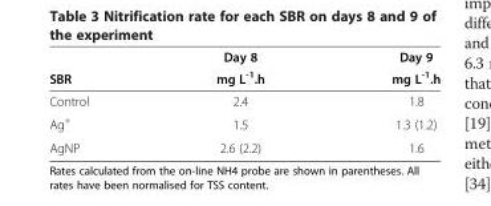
<table><thead><tr><td rowspan="2">SBR</td><td rowspan="2">Day 8 mg L<sup>-1</sup>.h</td><td rowspan="2">Day 9 mg L<sup>-1</sup>.h</td></tr><tr></tr></thead><tbody><tr><td>Control</td><td>2.4</td><td>1.8</td></tr><tr><td>Ag<sup>+</sup></td><td>1.5</td><td>1.3 (1.2)</td></tr><tr><td>AgNP</td><td>2.6 (2.2)</td><td>1.6</td></tr></tbody></table>